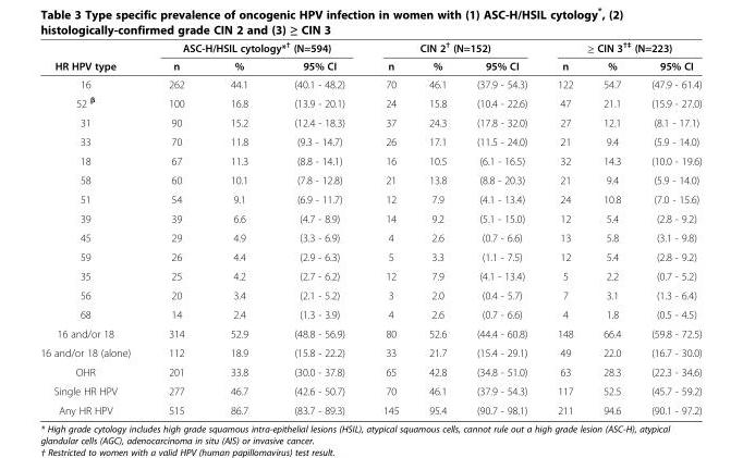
<table><thead><tr><td rowspan="2">HR HPV type</td><td colspan="3">ASC-H/HSIL cytology*<sup>†</sup> (N=594)</td><td colspan="3">CIN 2<sup>†</sup> (N=152)</td><td colspan="3">≥ CIN 3<sup>†‡</sup> (N=223)</td></tr><tr><td>n</td><td>%</td><td>95% CI</td><td>n</td><td>%</td><td>95% CI</td><td>n</td><td>%</td><td>95% CI</td></tr></thead><tbody><tr><td>16</td><td>262</td><td>44.1</td><td>(40.1 - 48.2)</td><td>70</td><td>46.1</td><td>(37.9 - 54.3)</td><td>122</td><td>54.7</td><td>(47.9 - 61.4)</td></tr><tr><td>52 <sup>β</sup></td><td>100</td><td>16.8</td><td>(13.9 - 20.1)</td><td>24</td><td>15.8</td><td>(10.4 - 22.6)</td><td>47</td><td>21.1</td><td>(15.9 - 27.0)</td></tr><tr><td>31</td><td>90</td><td>15.2</td><td>(12.4 - 18.3)</td><td>37</td><td>24.3</td><td>(17.8 - 32.0)</td><td>27</td><td>12.1</td><td>(8.1 - 17.1)</td></tr><tr><td>33</td><td>70</td><td>11.8</td><td>(9.3 - 14.7)</td><td>26</td><td>17.1</td><td>(11.5 - 24.0)</td><td>21</td><td>9.4</td><td>(5.9 - 14.0)</td></tr><tr><td>18</td><td>67</td><td>11.3</td><td>(8.8 - 14.1)</td><td>16</td><td>10.5</td><td>(6.1 - 16.5)</td><td>32</td><td>14.3</td><td>(10.0 - 19.6)</td></tr><tr><td>58</td><td>60</td><td>10.1</td><td>(7.8 - 12.8)</td><td>21</td><td>13.8</td><td>(8.8 - 20.3)</td><td>21</td><td>9.4</td><td>(5.9 - 14.0)</td></tr><tr><td>51</td><td>54</td><td>9.1</td><td>(6.9 - 11.7)</td><td>12</td><td>7.9</td><td>(4.1 - 13.4)</td><td>24</td><td>10.8</td><td>(7.0 - 15.6)</td></tr><tr><td>39</td><td>39</td><td>6.6</td><td>(4.7 - 8.9)</td><td>14</td><td>9.2</td><td>(5.1 - 15.0)</td><td>12</td><td>5.4</td><td>(2.8 - 9.2)</td></tr><tr><td>45</td><td>29</td><td>4.9</td><td>(3.3 - 6.9)</td><td>4</td><td>2.6</td><td>(0.7 - 6.6)</td><td>13</td><td>5.8</td><td>(3.1 - 9.8)</td></tr><tr><td>59</td><td>26</td><td>4.4</td><td>(2.9 - 6.3)</td><td>5</td><td>3.3</td><td>(1.1 - 7.5)</td><td>12</td><td>5.4</td><td>(2.8 - 9.2)</td></tr><tr><td>35</td><td>25</td><td>4.2</td><td>(2.7 - 6.2)</td><td>12</td><td>7.9</td><td>(4.1 - 13.4)</td><td>5</td><td>2.2</td><td>(0.7 - 5.2)</td></tr><tr><td>56</td><td>20</td><td>3.4</td><td>(2.1 - 5.2)</td><td>3</td><td>2.0</td><td>(0.4 - 5.7)</td><td>7</td><td>3.1</td><td>(1.3 - 6.4)</td></tr><tr><td>68</td><td>14</td><td>2.4</td><td>(1.3 - 3.9)</td><td>4</td><td>2.6</td><td>(0.7 - 6.6)</td><td>4</td><td>1.8</td><td>(0.5 - 4.5)</td></tr><tr><td>16 and/or 18</td><td>314</td><td>52.9</td><td>(48.8 - 56.9)</td><td>80</td><td>52.6</td><td>(44.4 - 60.8)</td><td>148</td><td>66.4</td><td>(59.8 - 72.5)</td></tr><tr><td>16 and/or 18 (alone)</td><td>112</td><td>18.9</td><td>(15.8 - 22.2)</td><td>33</td><td>21.7</td><td>(15.4 - 29.1)</td><td>49</td><td>22.0</td><td>(16.7 - 30.0)</td></tr><tr><td>OHR</td><td>201</td><td>33.8</td><td>(30.0 - 37.8)</td><td>65</td><td>42.8</td><td>(34.8 - 51.0)</td><td>63</td><td>28.3</td><td>(22.3 - 34.6)</td></tr><tr><td>Single HR HPV</td><td>277</td><td>46.7</td><td>(42.6 - 50.7)</td><td>70</td><td>46.1</td><td>(37.9 - 54.3)</td><td>117</td><td>52.5</td><td>(45.7 - 59.2)</td></tr><tr><td>Any HR HPV</td><td>515</td><td>86.7</td><td>(83.7 - 89.3)</td><td>145</td><td>95.4</td><td>(90.7 - 98.1)</td><td>211</td><td>94.6</td><td>(90.1 - 97.2)</td></tr></tbody></table>